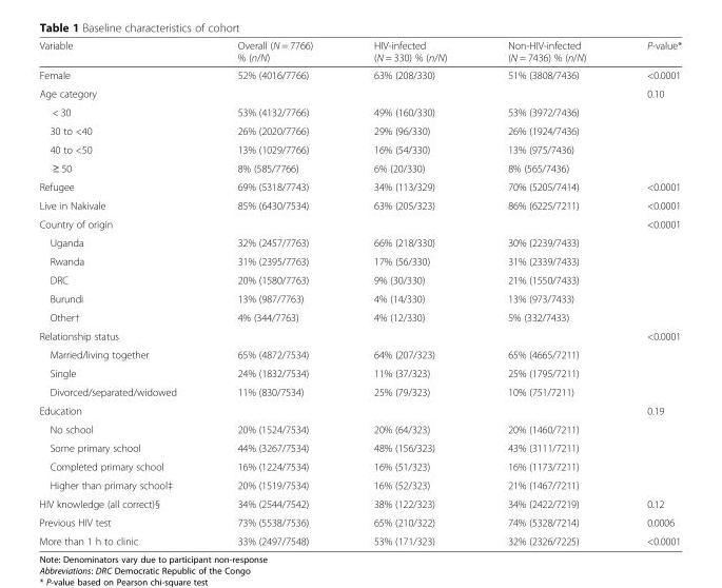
<table><thead><tr><td>Variable</td><td>Overall (N = 7766) % (n/N)</td><td>HIV-infected (N = 330) % (n/N)</td><td>Non-HIV-infected (N = 7436) % (n/N)</td><td>P-value*</td></tr></thead><tbody><tr><td>Female</td><td>52% (4016/7766)</td><td>63% (208/330)</td><td>51% (3808/7436)</td><td>&lt;0.0001</td></tr><tr><td>Age category</td><td></td><td></td><td></td><td>0.10</td></tr><tr><td>&lt; 30</td><td>53% (4132/7766)</td><td>49% (160/330)</td><td>53% (3972/7436)</td><td></td></tr><tr><td>30 to &lt;40</td><td>26% (2020/7766)</td><td>29% (96/330)</td><td>26% (1924/7436)</td><td></td></tr><tr><td>40 to &lt;50</td><td>13% (1029/7766)</td><td>16% (54/330)</td><td>13% (975/7436)</td><td></td></tr><tr><td>≥ 50</td><td>8% (585/7766)</td><td>6% (20/330)</td><td>8% (565/7436)</td><td></td></tr><tr><td>Refugee</td><td>69% (5318/7743)</td><td>34% (113/329)</td><td>70% (5205/7414)</td><td>&lt;0.0001</td></tr><tr><td>Live in Nakivale</td><td>85% (6430/7534)</td><td>63% (205/323)</td><td>86% (6225/7211)</td><td>&lt;0.0001</td></tr><tr><td>Country of origin</td><td></td><td></td><td></td><td>&lt;0.0001</td></tr><tr><td>Uganda</td><td>32% (2457/7763)</td><td>66% (218/330)</td><td>30% (2239/7433)</td><td></td></tr><tr><td>Rwanda</td><td>31% (2395/7763)</td><td>17% (56/330)</td><td>31% (2339/7433)</td><td></td></tr><tr><td>DRC</td><td>20% (1580/7763)</td><td>9% (30/330)</td><td>21% (1550/7433)</td><td></td></tr><tr><td>Burundi</td><td>13% (987/7763)</td><td>4% (14/330)</td><td>13% (973/7433)</td><td></td></tr><tr><td>Other†</td><td>4% (344/7763)</td><td>4% (12/330)</td><td>5% (332/7433)</td><td></td></tr><tr><td>Relationship status</td><td></td><td></td><td></td><td>&lt;0.0001</td></tr><tr><td>Married/living together</td><td>65% (4872/7534)</td><td>64% (207/323)</td><td>65% (4665/7211)</td><td></td></tr><tr><td>Single</td><td>24% (1832/7534)</td><td>11% (37/323)</td><td>25% (1795/7211)</td><td></td></tr><tr><td>Divorced/separated/widowed</td><td>11% (830/7534)</td><td>25% (79/323)</td><td>10% (751/7211)</td><td></td></tr><tr><td>Education</td><td></td><td></td><td></td><td>0.19</td></tr><tr><td>No school</td><td>20% (1524/7534)</td><td>20% (64/323)</td><td>20% (1460/7211)</td><td></td></tr><tr><td>Some primary school</td><td>44% (3267/7534)</td><td>48% (156/323)</td><td>43% (3111/7211)</td><td></td></tr><tr><td>Completed primary school</td><td>16% (1224/7534)</td><td>16% (51/323)</td><td>16% (1173/7211)</td><td></td></tr><tr><td>Higher than primary school‡</td><td>20% (1519/7534)</td><td>16% (52/323)</td><td>21% (1467/7211)</td><td></td></tr><tr><td>HIV knowledge (all correct)§</td><td>34% (2544/7542)</td><td>38% (122/323)</td><td>34% (2422/7219)</td><td>0.12</td></tr><tr><td>Previous HIV test</td><td>73% (5538/7536)</td><td>65% (210/322)</td><td>74% (5328/7214)</td><td>0.0006</td></tr><tr><td>More than 1 h to clinic</td><td>33% (2497/7548)</td><td>53% (171/323)</td><td>32% (2326/7225)</td><td>&lt;0.0001</td></tr></tbody></table>